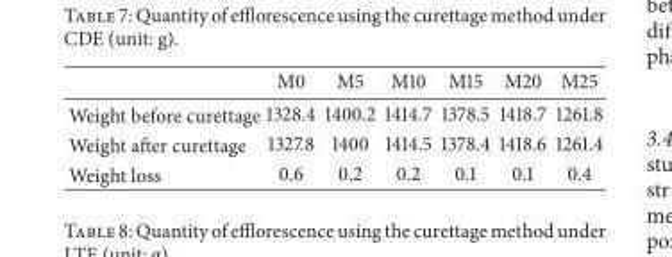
<table><thead><tr><td></td><td>M0</td><td>M5</td><td>M10</td><td>M15</td><td>M20</td><td>M25</td></tr></thead><tbody><tr><td>Weight before curettage</td><td>1328.4</td><td>1400.2</td><td>1414.7</td><td>1378.5</td><td>1418.7</td><td>1261.8</td></tr><tr><td>Weight after curettage</td><td>1327.8</td><td>1400</td><td>1414.5</td><td>1378.4</td><td>1418.6</td><td>1261.4</td></tr><tr><td>Weight loss</td><td>0.6</td><td>0.2</td><td>0.2</td><td>0.1</td><td>0.1</td><td>0.4</td></tr></tbody></table>